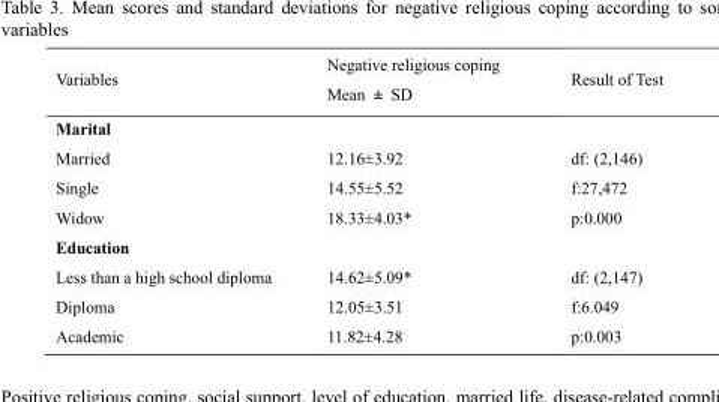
<table><thead><tr><td>Variables</td><td>Negative religious coping Mean ± SD</td><td>Result of Test</td></tr></thead><tbody><tr><td colspan="3">Marital</td></tr><tr><td>Married</td><td>12.16±3.92</td><td>df: (2,146)</td></tr><tr><td>Single</td><td>14.55±5.52</td><td>f:27,472</td></tr><tr><td>Widow</td><td>18.33±4.03*</td><td>p:0.000</td></tr><tr><td colspan="3">Education</td></tr><tr><td>Less than a high school diploma</td><td>14.62±5.09*</td><td>df: (2,147)</td></tr><tr><td>Diploma</td><td>12.05±3.51</td><td>f:6.049</td></tr><tr><td>Academic</td><td>11.82±4.28</td><td>p:0.003</td></tr></tbody></table>